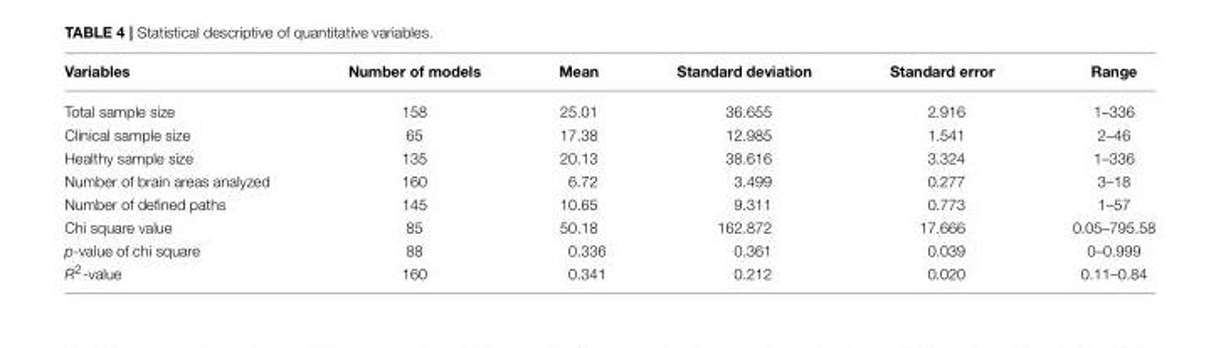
<table><thead><tr><td>Variables</td><td>Number of models</td><td>Mean</td><td>Standard deviation</td><td>Standard error</td><td>Range</td></tr></thead><tbody><tr><td>Total sample size</td><td>158</td><td>25.01</td><td>36.655</td><td>2.916</td><td>1–336</td></tr><tr><td>Clinical sample size</td><td>65</td><td>17.38</td><td>12.985</td><td>1.541</td><td>2–46</td></tr><tr><td>Healthy sample size</td><td>135</td><td>20.13</td><td>38.616</td><td>3.324</td><td>1–336</td></tr><tr><td>Number of brain areas analyzed</td><td>160</td><td>6.72</td><td>3.499</td><td>0.277</td><td>3–18</td></tr><tr><td>Number of defined paths</td><td>145</td><td>10.65</td><td>9.311</td><td>0.773</td><td>1–57</td></tr><tr><td>Chi square value</td><td>85</td><td>50.18</td><td>162.872</td><td>17.666</td><td>0.05–795.58</td></tr><tr><td>p-value of chi square</td><td>88</td><td>0.336</td><td>0.361</td><td>0.039</td><td>0–0.999</td></tr><tr><td>R<sup>2</sup>-value</td><td>160</td><td>0.341</td><td>0.212</td><td>0.020</td><td>0.11–0.84</td></tr></tbody></table>